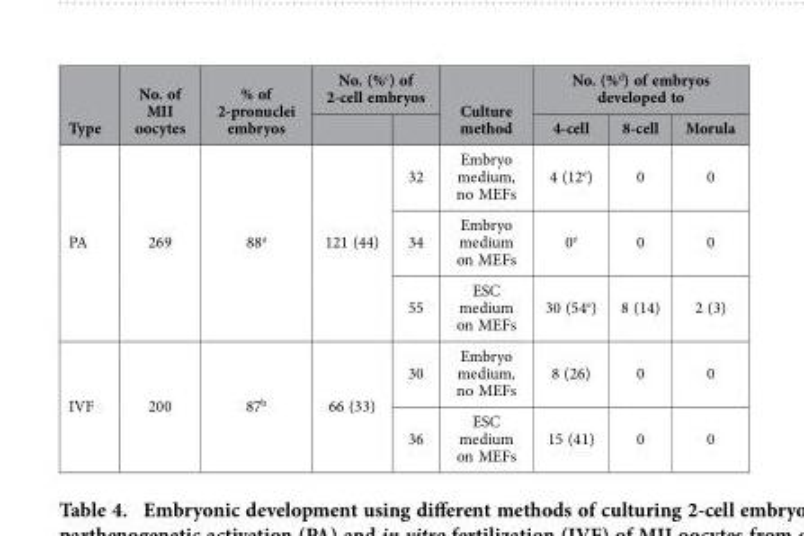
<table><thead><tr><td rowspan="2">Type</td><td rowspan="2">No. of MII oocytes</td><td rowspan="2">% of 2-pronuclei embryos</td><td colspan="2">No. (%<sup>c</sup>) of 2-cell embryos</td><td rowspan="2">Culture method</td><td colspan="3">No. (%<sup>d</sup>) of embryos developed to</td></tr><tr><td></td><td></td><td>4-cell</td><td>8-cell</td><td>Morula</td></tr></thead><tbody><tr><td rowspan="3">PA</td><td rowspan="3">269</td><td rowspan="3">88<sup>a</sup></td><td rowspan="3">121 (44)</td><td>32</td><td>Embryo medium, no MEFs</td><td>4 (12<sup>e</sup>)</td><td>0</td><td>0</td></tr><tr><td>34</td><td>Embryo medium on MEFs</td><td>0<sup>e</sup></td><td>0</td><td>0</td></tr><tr><td>55</td><td>ESC medium on MEFs</td><td>30 (54<sup>e</sup>)</td><td>8 (14)</td><td>2 (3)</td></tr><tr><td rowspan="2">IVF</td><td rowspan="2">200</td><td rowspan="2">87<sup>b</sup></td><td rowspan="2">66 (33)</td><td>30</td><td>Embryo medium, no MEFs</td><td>8 (26)</td><td>0</td><td>0</td></tr><tr><td>36</td><td>ESC medium on MEFs</td><td>15 (41)</td><td>0</td><td>0</td></tr></tbody></table>